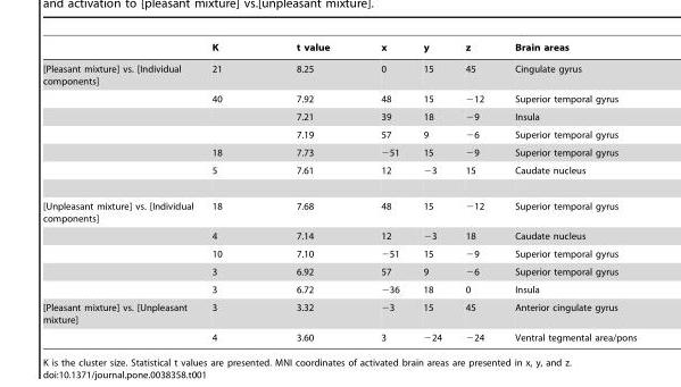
<table><thead><tr><td></td><td>K</td><td>t value</td><td>x</td><td>y</td><td>z</td><td>Brain areas</td></tr></thead><tbody><tr><td rowspan="6">[Pleasant mixture] vs. [Individual components]</td><td>21</td><td>8.25</td><td>0</td><td>15</td><td>45</td><td>Cingulate gyrus</td></tr><tr><td>40</td><td>7.92</td><td>48</td><td>15</td><td>−12</td><td>Superior temporal gyrus</td></tr><tr><td></td><td>7.21</td><td>39</td><td>18</td><td>−9</td><td>Insula</td></tr><tr><td></td><td>7.19</td><td>57</td><td>9</td><td>−6</td><td>Superior temporal gyrus</td></tr><tr><td>18</td><td>7.73</td><td>−51</td><td>15</td><td>−9</td><td>Superior temporal gyrus</td></tr><tr><td>5</td><td>7.61</td><td>12</td><td>−3</td><td>15</td><td>Caudate nucleus</td></tr><tr><td rowspan="5">[Unpleasant mixture] vs. [Individual components]</td><td>18</td><td>7.68</td><td>48</td><td>15</td><td>−12</td><td>Superior temporal gyrus</td></tr><tr><td>4</td><td>7.14</td><td>12</td><td>−3</td><td>18</td><td>Caudate nucleus</td></tr><tr><td>10</td><td>7.10</td><td>−51</td><td>15</td><td>−9</td><td>Superior temporal gyrus</td></tr><tr><td>3</td><td>6.92</td><td>57</td><td>9</td><td>−6</td><td>Superior temporal gyrus</td></tr><tr><td>3</td><td>6.72</td><td>−36</td><td>18</td><td>0</td><td>Insula</td></tr><tr><td rowspan="2">[Pleasant mixture] vs. [Unpleasant mixture]</td><td>3</td><td>3.32</td><td>−3</td><td>15</td><td>45</td><td>Anterior cingulate gyrus</td></tr><tr><td>4</td><td>3.60</td><td>3</td><td>−24</td><td>−24</td><td>Ventral tegmental area/pons</td></tr></tbody></table>